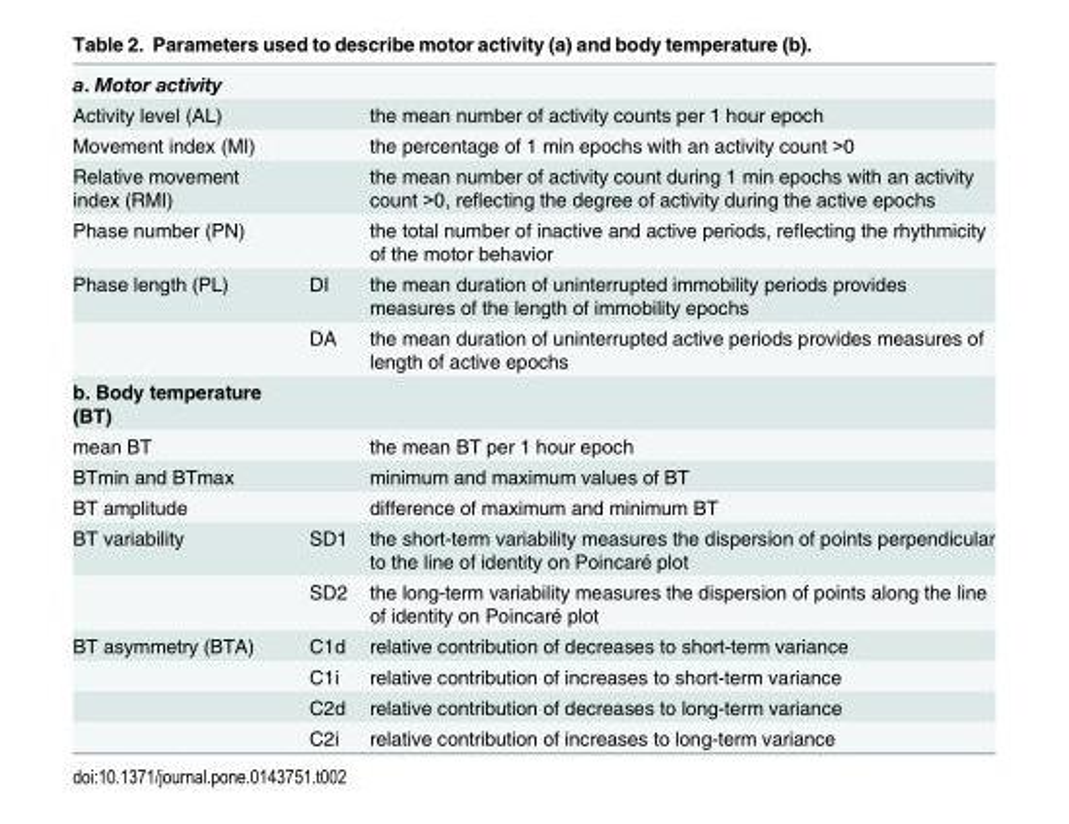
<table><tbody><tr><td colspan="3">a. Motor activity</td></tr><tr><td>Activity level (AL)</td><td></td><td>the mean number of activity counts per 1 hour epoch</td></tr><tr><td>Movement index (MI)</td><td></td><td>the percentage of 1 min epochs with an activity count &gt;0</td></tr><tr><td>Relative movement index (RMI)</td><td></td><td>the mean number of activity count during 1 min epochs with an activity count &gt;0, reflecting the degree of activity during the active epochs</td></tr><tr><td>Phase number (PN)</td><td></td><td>the total number of inactive and active periods, reflecting the rhythmicity of the motor behavior</td></tr><tr><td rowspan="2">Phase length (PL)</td><td>DI</td><td>the mean duration of uninterrupted immobility periods provides measures of the length of immobility epochs</td></tr><tr><td>DA</td><td>the mean duration of uninterrupted active periods provides measures of length of active epochs</td></tr><tr><td colspan="3">b. Body temperature (BT)</td></tr><tr><td>mean BT</td><td></td><td>the mean BT per 1 hour epoch</td></tr><tr><td>BTmin and BTmax</td><td></td><td>minimum and maximum values of BT</td></tr><tr><td>BT amplitude</td><td></td><td>difference of maximum and minimum BT</td></tr><tr><td rowspan="2">BT variability</td><td>SD1</td><td>the short-term variability measures the dispersion of points perpendicular to the line of identity on Poincaré plot</td></tr><tr><td>SD2</td><td>the long-term variability measures the dispersion of points along the line of identity on Poincaré plot</td></tr><tr><td rowspan="4">BT asymmetry (BTA)</td><td>C1d</td><td>relative contribution of decreases to short-term variance</td></tr><tr><td>C1i</td><td>relative contribution of increases to short-term variance</td></tr><tr><td>C2d</td><td>relative contribution of decreases to long-term variance</td></tr><tr><td>C2i</td><td>relative contribution of increases to long-term variance</td></tr></tbody></table>